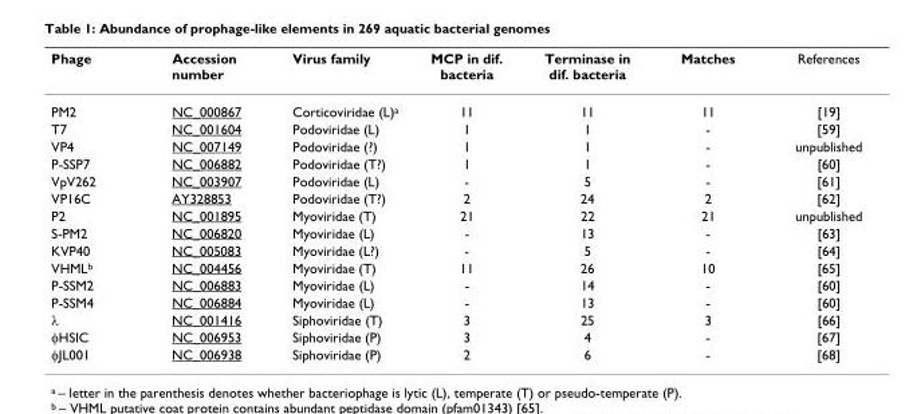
<table><thead><tr><td>Phage</td><td>Accession number</td><td>Virus family</td><td>MCP in dif. bacteria</td><td>Terminase in dif. bacteria</td><td>Matches</td><td>References</td></tr></thead><tbody><tr><td>PM2</td><td>NC_000867</td><td>Corticoviridae (L)<sup>a</sup></td><td>11</td><td>11</td><td>11</td><td>[19]</td></tr><tr><td>T7</td><td>NC_001604</td><td>Podoviridae (L)</td><td>1</td><td>1</td><td>-</td><td>[59]</td></tr><tr><td>VP4</td><td>NC_007149</td><td>Podoviridae (?)</td><td>1</td><td>1</td><td>-</td><td>unpublished</td></tr><tr><td>P-SSP7</td><td>NC_006882</td><td>Podoviridae (T?)</td><td>1</td><td>1</td><td>-</td><td>[60]</td></tr><tr><td>VpV262</td><td>NC_003907</td><td>Podoviridae (L)</td><td>-</td><td>5</td><td>-</td><td>[61]</td></tr><tr><td>VP16C</td><td>AY328853</td><td>Podoviridae (T?)</td><td>2</td><td>24</td><td>2</td><td>[62]</td></tr><tr><td>P2</td><td>NC_001895</td><td>Myoviridae (T)</td><td>21</td><td>22</td><td>21</td><td>unpublished</td></tr><tr><td>S-PM2</td><td>NC_006820</td><td>Myoviridae (L)</td><td>-</td><td>13</td><td>-</td><td>[63]</td></tr><tr><td>KVP40</td><td>NC_005083</td><td>Myoviridae (L?)</td><td>-</td><td>5</td><td>-</td><td>[64]</td></tr><tr><td>VHML<sup>b</sup></td><td>NC_004456</td><td>Myoviridae (T)</td><td>11</td><td>26</td><td>10</td><td>[65]</td></tr><tr><td>P-SSM2</td><td>NC_006883</td><td>Myoviridae (L)</td><td>-</td><td>14</td><td>-</td><td>[60]</td></tr><tr><td>P-SSM4</td><td>NC_006884</td><td>Myoviridae (L)</td><td>-</td><td>13</td><td>-</td><td>[60]</td></tr><tr><td>λ</td><td>NC_001416</td><td>Siphoviridae (T)</td><td>3</td><td>25</td><td>3</td><td>[66]</td></tr><tr><td>φHSIC</td><td>NC_006953</td><td>Siphoviridae (P)</td><td>3</td><td>4</td><td>-</td><td>[67]</td></tr><tr><td>φJL001</td><td>NC_006938</td><td>Siphoviridae (P)</td><td>2</td><td>6</td><td>-</td><td>[68]</td></tr></tbody></table>